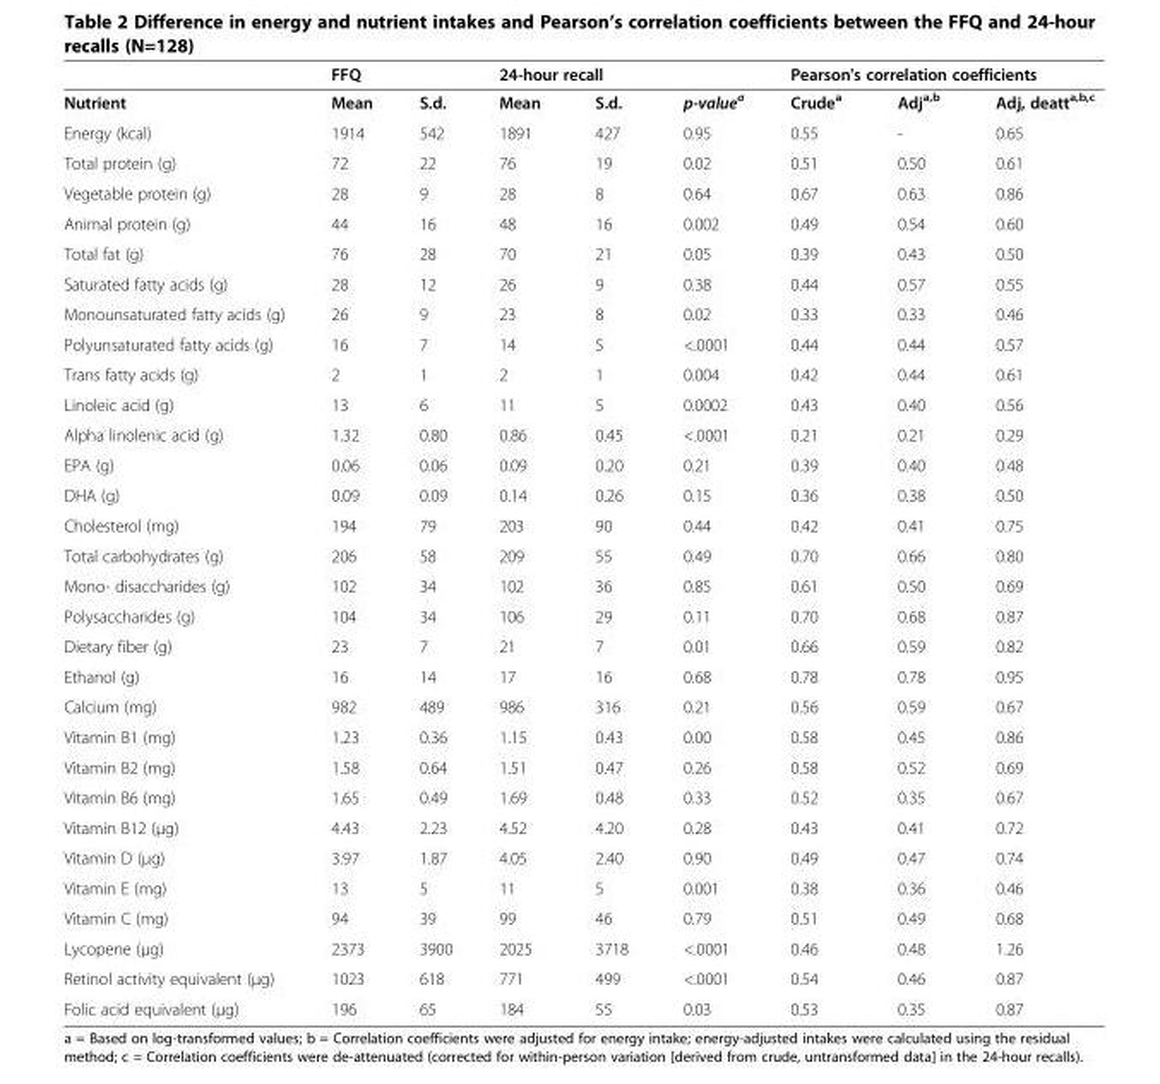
<table><thead><tr><td rowspan="2">Nutrient</td><td colspan="2">FFQ</td><td colspan="2">24-hour recall</td><td rowspan="2">p-value<sup>a</sup></td><td colspan="3">Pearson&#x27;s correlation coefficients</td></tr><tr><td>Mean</td><td>S.d.</td><td>Mean</td><td>S.d.</td><td>Crude<sup>a</sup></td><td>Adj<sup>a,b</sup></td><td>Adj, deatt<sup>a,b,c</sup></td></tr></thead><tbody><tr><td>Energy (kcal)</td><td>1914</td><td>542</td><td>1891</td><td>427</td><td>0.95</td><td>0.55</td><td>-</td><td>0.65</td></tr><tr><td>Total protein (g)</td><td>72</td><td>22</td><td>76</td><td>19</td><td>0.02</td><td>0.51</td><td>0.50</td><td>0.61</td></tr><tr><td>Vegetable protein (g)</td><td>28</td><td>9</td><td>28</td><td>8</td><td>0.64</td><td>0.67</td><td>0.63</td><td>0.86</td></tr><tr><td>Animal protein (g)</td><td>44</td><td>16</td><td>48</td><td>16</td><td>0.002</td><td>0.49</td><td>0.54</td><td>0.60</td></tr><tr><td>Total fat (g)</td><td>76</td><td>28</td><td>70</td><td>21</td><td>0.05</td><td>0.39</td><td>0.43</td><td>0.50</td></tr><tr><td>Saturated fatty acids (g)</td><td>28</td><td>12</td><td>26</td><td>9</td><td>0.38</td><td>0.44</td><td>0.57</td><td>0.55</td></tr><tr><td>Monounsaturated fatty acids (g)</td><td>26</td><td>9</td><td>23</td><td>8</td><td>0.02</td><td>0.33</td><td>0.33</td><td>0.46</td></tr><tr><td>Polyunsaturated fatty acids (g)</td><td>16</td><td>7</td><td>14</td><td>5</td><td>&lt;.0001</td><td>0.44</td><td>0.44</td><td>0.57</td></tr><tr><td>Trans fatty acids (g)</td><td>2</td><td>1</td><td>2</td><td>1</td><td>0.004</td><td>0.42</td><td>0.44</td><td>0.61</td></tr><tr><td>Linoleic acid (g)</td><td>13</td><td>6</td><td>11</td><td>5</td><td>0.0002</td><td>0.43</td><td>0.40</td><td>0.56</td></tr><tr><td>Alpha linolenic acid (g)</td><td>1.32</td><td>0.80</td><td>0.86</td><td>0.45</td><td>&lt;.0001</td><td>0.21</td><td>0.21</td><td>0.29</td></tr><tr><td>EPA (g)</td><td>0.06</td><td>0.06</td><td>0.09</td><td>0.20</td><td>0.21</td><td>0.39</td><td>0.40</td><td>0.48</td></tr><tr><td>DHA (g)</td><td>0.09</td><td>0.09</td><td>0.14</td><td>0.26</td><td>0.15</td><td>0.36</td><td>0.38</td><td>0.50</td></tr><tr><td>Cholesterol (mg)</td><td>194</td><td>79</td><td>203</td><td>90</td><td>0.44</td><td>0.42</td><td>0.41</td><td>0.75</td></tr><tr><td>Total carbohydrates (g)</td><td>206</td><td>58</td><td>209</td><td>55</td><td>0.49</td><td>0.70</td><td>0.66</td><td>0.80</td></tr><tr><td>Mono- disaccharides (g)</td><td>102</td><td>34</td><td>102</td><td>36</td><td>0.85</td><td>0.61</td><td>0.50</td><td>0.69</td></tr><tr><td>Polysaccharides (g)</td><td>104</td><td>34</td><td>106</td><td>29</td><td>0.11</td><td>0.70</td><td>0.68</td><td>0.87</td></tr><tr><td>Dietary fiber (g)</td><td>23</td><td>7</td><td>21</td><td>7</td><td>0.01</td><td>0.66</td><td>0.59</td><td>0.82</td></tr><tr><td>Ethanol (g)</td><td>16</td><td>14</td><td>17</td><td>16</td><td>0.68</td><td>0.78</td><td>0.78</td><td>0.95</td></tr><tr><td>Calcium (mg)</td><td>982</td><td>489</td><td>986</td><td>316</td><td>0.21</td><td>0.56</td><td>0.59</td><td>0.67</td></tr><tr><td>Vitamin B1 (mg)</td><td>1.23</td><td>0.36</td><td>1.15</td><td>0.43</td><td>0.00</td><td>0.58</td><td>0.45</td><td>0.86</td></tr><tr><td>Vitamin B2 (mg)</td><td>1.58</td><td>0.64</td><td>1.51</td><td>0.47</td><td>0.26</td><td>0.58</td><td>0.52</td><td>0.69</td></tr><tr><td>Vitamin B6 (mg)</td><td>1.65</td><td>0.49</td><td>1.69</td><td>0.48</td><td>0.33</td><td>0.52</td><td>0.35</td><td>0.67</td></tr><tr><td>Vitamin B12 (μg)</td><td>4.43</td><td>2.23</td><td>4.52</td><td>4.20</td><td>0.28</td><td>0.43</td><td>0.41</td><td>0.72</td></tr><tr><td>Vitamin D (μg)</td><td>3.97</td><td>1.87</td><td>4.05</td><td>2.40</td><td>0.90</td><td>0.49</td><td>0.47</td><td>0.74</td></tr><tr><td>Vitamin E (mg)</td><td>13</td><td>5</td><td>11</td><td>5</td><td>0.001</td><td>0.38</td><td>0.36</td><td>0.46</td></tr><tr><td>Vitamin C (mg)</td><td>94</td><td>39</td><td>99</td><td>46</td><td>0.79</td><td>0.51</td><td>0.49</td><td>0.68</td></tr><tr><td>Lycopene (μg)</td><td>2373</td><td>3900</td><td>2025</td><td>3718</td><td>&lt;.0001</td><td>0.46</td><td>0.48</td><td>1.26</td></tr><tr><td>Retinol activity equivalent (μg)</td><td>1023</td><td>618</td><td>771</td><td>499</td><td>&lt;.0001</td><td>0.54</td><td>0.46</td><td>0.87</td></tr><tr><td>Folic acid equivalent (μg)</td><td>196</td><td>65</td><td>184</td><td>55</td><td>0.03</td><td>0.53</td><td>0.35</td><td>0.87</td></tr></tbody></table>